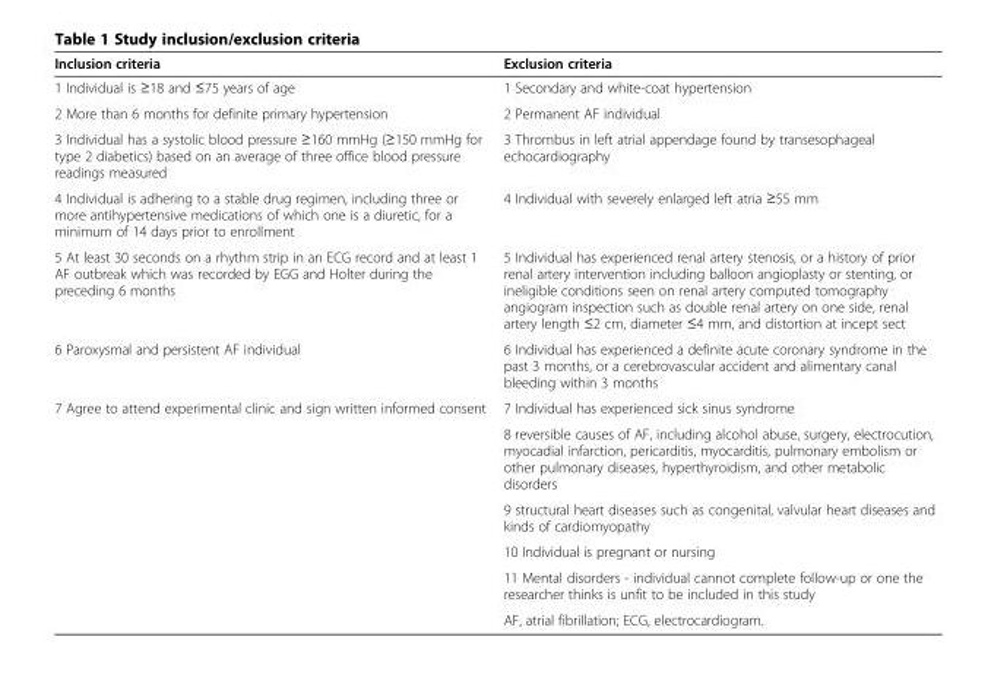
<table><thead><tr><td>Inclusion criteria</td><td>Exclusion criteria</td></tr></thead><tbody><tr><td>1 Individual is ≥18 and ≤75 years of age</td><td>1 Secondary and white-coat hypertension</td></tr><tr><td>2 More than 6 months for definite primary hypertension</td><td>2 Permanent AF individual</td></tr><tr><td>3 Individual has a systolic blood pressure ≥160 mmHg (≥150 mmHg for type 2 diabetics) based on an average of three office blood pressure readings measured</td><td>3 Thrombus in left atrial appendage found by transesophageal echocardiography</td></tr><tr><td>4 Individual is adhering to a stable drug regimen, including three or more antihypertensive medications of which one is a diuretic, for a minimum of 14 days prior to enrollment</td><td>4 Individual with severely enlarged left atria ≥55 mm</td></tr><tr><td>5 At least 30 seconds on a rhythm strip in an ECG record and at least 1 AF outbreak which was recorded by EGG and Holter during the preceding 6 months</td><td>5 Individual has experienced renal artery stenosis, or a history of prior renal artery intervention including balloon angioplasty or stenting, or ineligible conditions seen on renal artery computed tomography angiogram inspection such as double renal artery on one side, renal artery length ≤2 cm, diameter ≤4 mm, and distortion at incept sect</td></tr><tr><td>6 Paroxysmal and persistent AF individual</td><td>6 Individual has experienced a definite acute coronary syndrome in the past 3 months, or a cerebrovascular accident and alimentary canal bleeding within 3 months</td></tr><tr><td rowspan="6">7 Agree to attend experimental clinic and sign written informed consent</td><td>7 Individual has experienced sick sinus syndrome</td></tr><tr><td>8 reversible causes of AF, including alcohol abuse, surgery, electrocution, myocadial infarction, pericarditis, myocarditis, pulmonary embolism or other pulmonary diseases, hyperthyroidism, and other metabolic disorders</td></tr><tr><td>9 structural heart diseases such as congenital, valvular heart diseases and kinds of cardiomyopathy</td></tr><tr><td>10 Individual is pregnant or nursing</td></tr><tr><td>11 Mental disorders - individual cannot complete follow-up or one the researcher thinks is unfit to be included in this study</td></tr><tr><td>AF, atrial fibrillation; ECG, electrocardiogram.</td></tr></tbody></table>